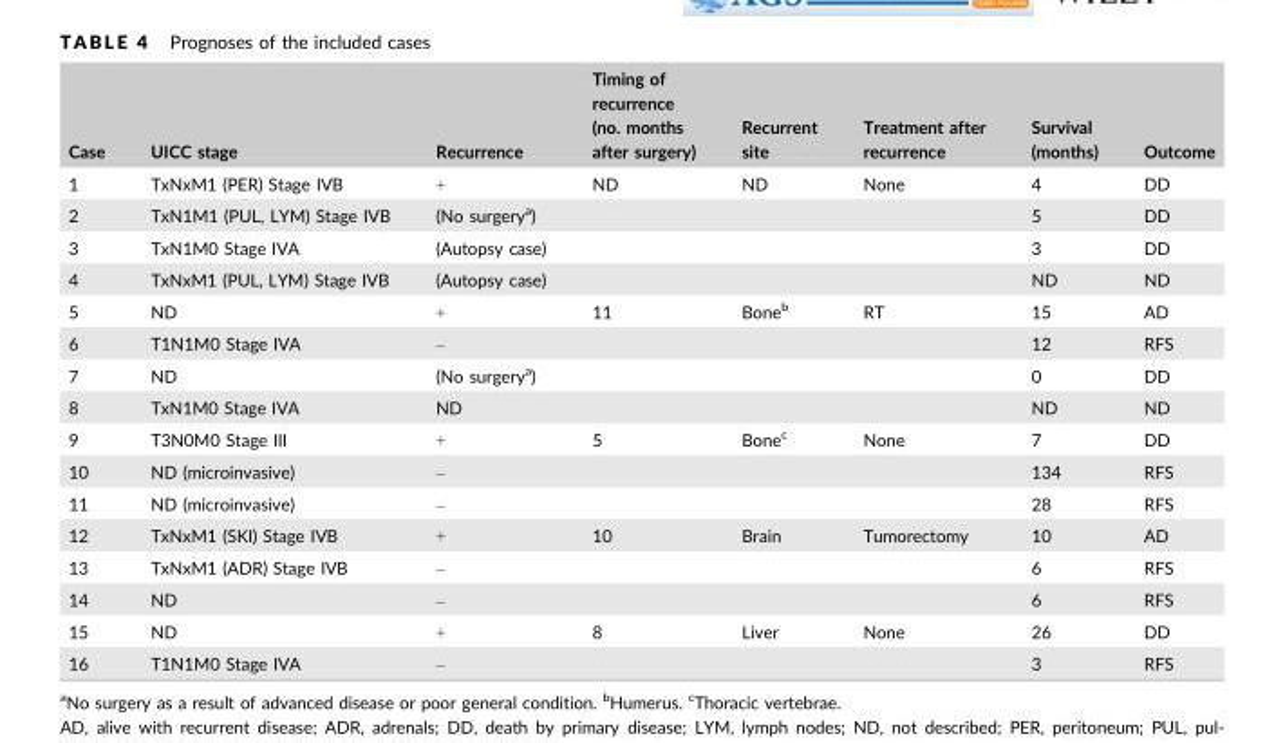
<table><thead><tr><td>Case</td><td>UICC stage</td><td>Recurrence</td><td>Timing of recurrence (no. months after surgery)</td><td>Recurrent site</td><td>Treatment after recurrence</td><td>Survival (months)</td><td>Outcome</td></tr></thead><tbody><tr><td>1</td><td>TxNxM1 (PER) Stage IVB</td><td>+</td><td>ND</td><td>ND</td><td>None</td><td>4</td><td>DD</td></tr><tr><td>2</td><td>TxN1M1 (PUL, LYM) Stage IVB</td><td>(No surgery<sup>a</sup>)</td><td></td><td></td><td></td><td>5</td><td>DD</td></tr><tr><td>3</td><td>TxN1M0 Stage IVA</td><td>(Autopsy case)</td><td></td><td></td><td></td><td>3</td><td>DD</td></tr><tr><td>4</td><td>TxNxM1 (PUL, LYM) Stage IVB</td><td>(Autopsy case)</td><td></td><td></td><td></td><td>ND</td><td>ND</td></tr><tr><td>5</td><td>ND</td><td>+</td><td>11</td><td>Bone<sup>b</sup></td><td>RT</td><td>15</td><td>AD</td></tr><tr><td>6</td><td>T1N1M0 Stage IVA</td><td>–</td><td></td><td></td><td></td><td>12</td><td>RFS</td></tr><tr><td>7</td><td>ND</td><td>(No surgery<sup>a</sup>)</td><td></td><td></td><td></td><td>0</td><td>DD</td></tr><tr><td>8</td><td>TxN1M0 Stage IVA</td><td>ND</td><td></td><td></td><td></td><td>ND</td><td>ND</td></tr><tr><td>9</td><td>T3N0M0 Stage III</td><td>+</td><td>5</td><td>Bone<sup>c</sup></td><td>None</td><td>7</td><td>DD</td></tr><tr><td>10</td><td>ND (microinvasive)</td><td>–</td><td></td><td></td><td></td><td>134</td><td>RFS</td></tr><tr><td>11</td><td>ND (microinvasive)</td><td>–</td><td></td><td></td><td></td><td>28</td><td>RFS</td></tr><tr><td>12</td><td>TxNxM1 (SKI) Stage IVB</td><td>+</td><td>10</td><td>Brain</td><td>Tumorectomy</td><td>10</td><td>AD</td></tr><tr><td>13</td><td>TxNxM1 (ADR) Stage IVB</td><td>–</td><td></td><td></td><td></td><td>6</td><td>RFS</td></tr><tr><td>14</td><td>ND</td><td>–</td><td></td><td></td><td></td><td>6</td><td>RFS</td></tr><tr><td>15</td><td>ND</td><td>+</td><td>8</td><td>Liver</td><td>None</td><td>26</td><td>DD</td></tr><tr><td>16</td><td>T1N1M0 Stage IVA</td><td>–</td><td></td><td></td><td></td><td>3</td><td>RFS</td></tr></tbody></table>